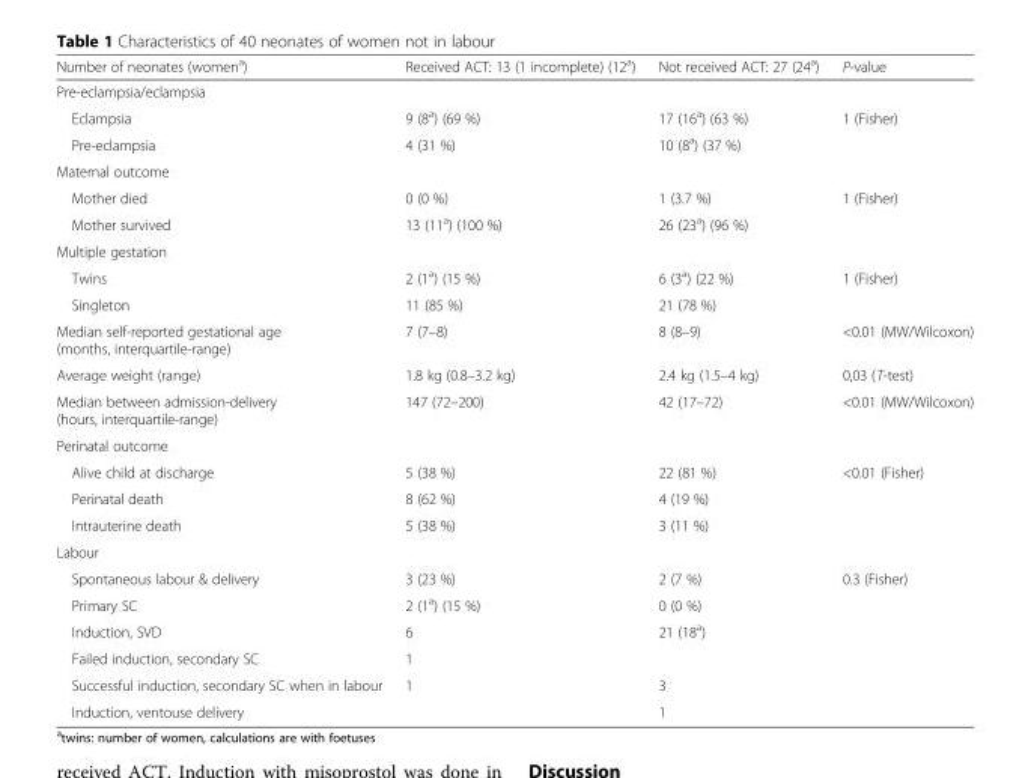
<table><thead><tr><td>Number of neonates (women<sup>a</sup>)</td><td>Received ACT: 13 (1 incomplete) (12<sup>a</sup>)</td><td>Not received ACT: 27 (24<sup>a</sup>)</td><td>P-value</td></tr></thead><tbody><tr><td colspan="4">Pre-eclampsia/eclampsia</td></tr><tr><td>Eclampsia</td><td>9 (8<sup>a</sup>) (69 %)</td><td>17 (16<sup>a</sup>) (63 %)</td><td rowspan="2">1 (Fisher)</td></tr><tr><td>Pre-eclampsia</td><td>4 (31 %)</td><td>10 (8<sup>a</sup>) (37 %)</td></tr><tr><td colspan="4">Maternal outcome</td></tr><tr><td>Mother died</td><td>0 (0 %)</td><td>1 (3.7 %)</td><td rowspan="2">1 (Fisher)</td></tr><tr><td>Mother survived</td><td>13 (11<sup>a</sup>) (100 %)</td><td>26 (23<sup>a</sup>) (96 %)</td></tr><tr><td colspan="4">Multiple gestation</td></tr><tr><td>Twins</td><td>2 (1<sup>a</sup>) (15 %)</td><td>6 (3<sup>a</sup>) (22 %)</td><td rowspan="2">1 (Fisher)</td></tr><tr><td>Singleton</td><td>11 (85 %)</td><td>21 (78 %)</td></tr><tr><td>Median self-reported gestational age (months, interquartile-range)</td><td>7 (7–8)</td><td>8 (8–9)</td><td>&lt;0.01 (MW/Wilcoxon)</td></tr><tr><td>Average weight (range)</td><td>1.8 kg (0.8–3.2 kg)</td><td>2.4 kg (1.5–4 kg)</td><td>0,03 (T-test)</td></tr><tr><td>Median between admission-delivery (hours, interquartile-range)</td><td>147 (72–200)</td><td>42 (17–72)</td><td>&lt;0.01 (MW/Wilcoxon)</td></tr><tr><td colspan="4">Perinatal outcome</td></tr><tr><td>Alive child at discharge</td><td>5 (38 %)</td><td>22 (81 %)</td><td rowspan="3">&lt;0.01 (Fisher)</td></tr><tr><td>Perinatal death</td><td>8 (62 %)</td><td>4 (19 %)</td></tr><tr><td>Intrauterine death</td><td>5 (38 %)</td><td>3 (11 %)</td></tr><tr><td colspan="4">Labour</td></tr><tr><td>Spontaneous labour &amp; delivery</td><td>3 (23 %)</td><td>2 (7 %)</td><td rowspan="6">0.3 (Fisher)</td></tr><tr><td>Primary SC</td><td>2 (1<sup>a</sup>) (15 %)</td><td>0 (0 %)</td></tr><tr><td>Induction, SVD</td><td>6</td><td>21 (18<sup>a</sup>)</td></tr><tr><td>Failed induction, secondary SC</td><td>1</td><td></td></tr><tr><td>Successful induction, secondary SC when in labour</td><td>1</td><td>3</td></tr><tr><td>Induction, ventouse delivery</td><td></td><td>1</td></tr></tbody></table>